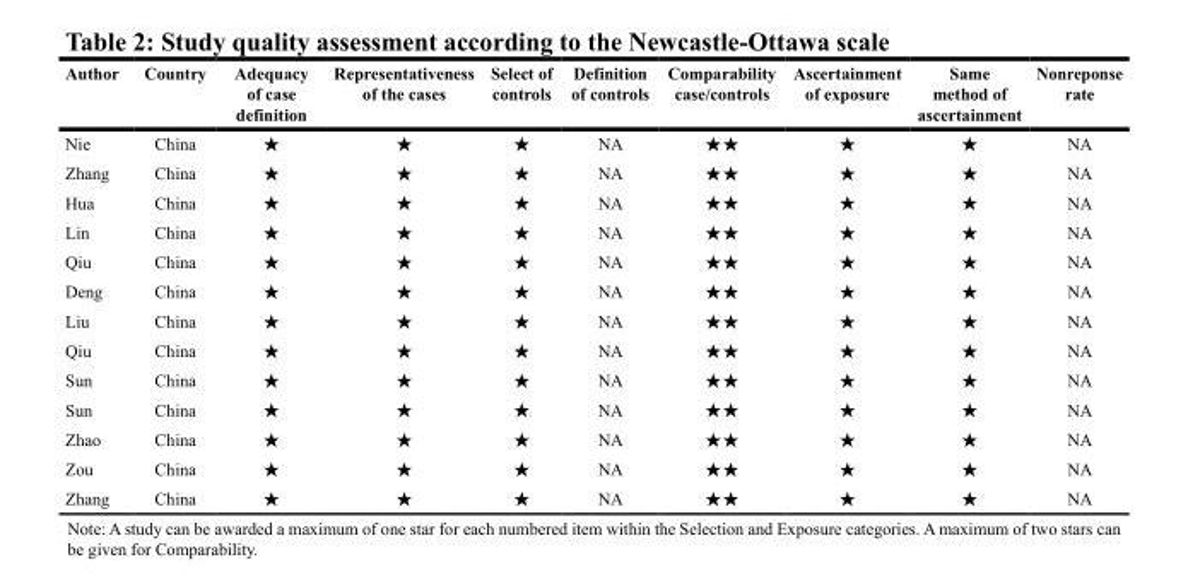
<table><thead><tr><td>Author</td><td>Country</td><td>Adequacy of case definition</td><td>Representativeness of the cases</td><td>Select of controls</td><td>Definition of controls</td><td>Comparability case/controls</td><td>Ascertainment of exposure</td><td>Same method of ascertainment</td><td>Nonreponse rate</td></tr></thead><tbody><tr><td>Nie</td><td>China</td><td>★</td><td>★</td><td>★</td><td>NA</td><td>★★</td><td>★</td><td>★</td><td>NA</td></tr><tr><td>Zhang</td><td>China</td><td>★</td><td>★</td><td>★</td><td>NA</td><td>★★</td><td>★</td><td>★</td><td>NA</td></tr><tr><td>Hua</td><td>China</td><td>★</td><td>★</td><td>★</td><td>NA</td><td>★★</td><td>★</td><td>★</td><td>NA</td></tr><tr><td>Lin</td><td>China</td><td>★</td><td>★</td><td>★</td><td>NA</td><td>★★</td><td>★</td><td>★</td><td>NA</td></tr><tr><td>Qiu</td><td>China</td><td>★</td><td>★</td><td>★</td><td>NA</td><td>★★</td><td>★</td><td>★</td><td>NA</td></tr><tr><td>Deng</td><td>China</td><td>★</td><td>★</td><td>★</td><td>NA</td><td>★★</td><td>★</td><td>★</td><td>NA</td></tr><tr><td>Liu</td><td>China</td><td>★</td><td>★</td><td>★</td><td>NA</td><td>★★</td><td>★</td><td>★</td><td>NA</td></tr><tr><td>Qiu</td><td>China</td><td>★</td><td>★</td><td>★</td><td>NA</td><td>★★</td><td>★</td><td>★</td><td>NA</td></tr><tr><td>Sun</td><td>China</td><td>★</td><td>★</td><td>★</td><td>NA</td><td>★★</td><td>★</td><td>★</td><td>NA</td></tr><tr><td>Sun</td><td>China</td><td>★</td><td>★</td><td>★</td><td>NA</td><td>★★</td><td>★</td><td>★</td><td>NA</td></tr><tr><td>Zhao</td><td>China</td><td>★</td><td>★</td><td>★</td><td>NA</td><td>★★</td><td>★</td><td>★</td><td>NA</td></tr><tr><td>Zou</td><td>China</td><td>★</td><td>★</td><td>★</td><td>NA</td><td>★★</td><td>★</td><td>★</td><td>NA</td></tr><tr><td>Zhang</td><td>China</td><td>★</td><td>★</td><td>★</td><td>NA</td><td>★★</td><td>★</td><td>★</td><td>NA</td></tr></tbody></table>